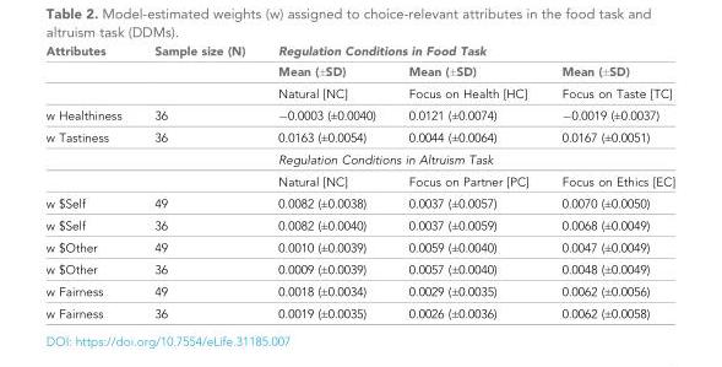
<table><thead><tr><td rowspan="2">Attributes</td><td rowspan="2">Sample size (N)</td><td colspan="3">Regulation Conditions in Food Task</td></tr><tr><td>Mean (±SD)</td><td>Mean (±SD)</td><td>Mean (±SD)</td></tr></thead><tbody><tr><td></td><td></td><td>Natural [NC]</td><td>Focus on Health [HC]</td><td>Focus on Taste [TC]</td></tr><tr><td>w Healthiness</td><td>36</td><td>−0.0003 (±0.0040)</td><td>0.0121 (±0.0074)</td><td>−0.0019 (±0.0037)</td></tr><tr><td rowspan="3">w Tastiness</td><td>36</td><td>0.0163 (±0.0054)</td><td>0.0044 (±0.0064)</td><td>0.0167 (±0.0051)</td></tr><tr><td></td><td colspan="3">Regulation Conditions in Altruism Task</td></tr><tr><td></td><td>Natural [NC]</td><td>Focus on Partner [PC]</td><td>Focus on Ethics [EC]</td></tr><tr><td>w $Self</td><td>49</td><td>0.0082 (±0.0038)</td><td>0.0037 (±0.0057)</td><td>0.0070 (±0.0050)</td></tr><tr><td>w $Self</td><td>36</td><td>0.0082 (±0.0040)</td><td>0.0037 (±0.0059)</td><td>0.0068 (±0.0049)</td></tr><tr><td>w $Other</td><td>49</td><td>0.0010 (±0.0039)</td><td>0.0059 (±0.0040)</td><td>0.0047 (±0.0049)</td></tr><tr><td>w $Other</td><td>36</td><td>0.0009 (±0.0039)</td><td>0.0057 (±0.0040)</td><td>0.0048 (±0.0049)</td></tr><tr><td>w Fairness</td><td>49</td><td>0.0018 (±0.0034)</td><td>0.0029 (±0.0035)</td><td>0.0062 (±0.0056)</td></tr><tr><td>w Fairness</td><td>36</td><td>0.0019 (±0.0035)</td><td>0.0026 (±0.0036)</td><td>0.0062 (±0.0058)</td></tr></tbody></table>